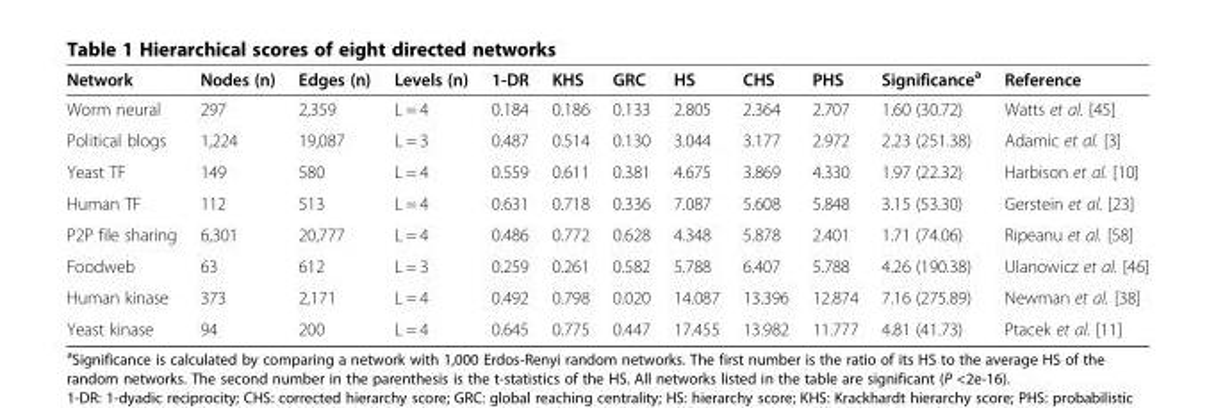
<table><thead><tr><td>Network</td><td>Nodes (n)</td><td>Edges (n)</td><td>Levels (n)</td><td>1-DR</td><td>KHS</td><td>GRC</td><td>HS</td><td>CHS</td><td>PHS</td><td>Significance<sup>a</sup></td><td>Reference</td></tr></thead><tbody><tr><td>Worm neural</td><td>297</td><td>2,359</td><td>L = 4</td><td>0.184</td><td>0.186</td><td>0.133</td><td>2.805</td><td>2.364</td><td>2.707</td><td>1.60 (30.72)</td><td>Watts et al. [45]</td></tr><tr><td>Political blogs</td><td>1,224</td><td>19,087</td><td>L = 3</td><td>0.487</td><td>0.514</td><td>0.130</td><td>3.044</td><td>3.177</td><td>2.972</td><td>2.23 (251.38)</td><td>Adamic et al. [3]</td></tr><tr><td>Yeast TF</td><td>149</td><td>580</td><td>L = 4</td><td>0.559</td><td>0.611</td><td>0.381</td><td>4.675</td><td>3.869</td><td>4.330</td><td>1.97 (22.32)</td><td>Harbison et al. [10]</td></tr><tr><td>Human TF</td><td>112</td><td>513</td><td>L = 4</td><td>0.631</td><td>0.718</td><td>0.336</td><td>7.087</td><td>5.608</td><td>5.848</td><td>3.15 (53.30)</td><td>Gerstein et al. [23]</td></tr><tr><td>P2P file sharing</td><td>6,301</td><td>20,777</td><td>L = 4</td><td>0.486</td><td>0.772</td><td>0.628</td><td>4.348</td><td>5.878</td><td>2.401</td><td>1.71 (74.06)</td><td>Ripeanu et al. [58]</td></tr><tr><td>Foodweb</td><td>63</td><td>612</td><td>L = 3</td><td>0.259</td><td>0.261</td><td>0.582</td><td>5.788</td><td>6.407</td><td>5.788</td><td>4.26 (190.38)</td><td>Ulanowicz et al. [46]</td></tr><tr><td>Human kinase</td><td>373</td><td>2,171</td><td>L = 4</td><td>0.492</td><td>0.798</td><td>0.020</td><td>14.087</td><td>13.396</td><td>12.874</td><td>7.16 (275.89)</td><td>Newman et al. [38]</td></tr><tr><td>Yeast kinase</td><td>94</td><td>200</td><td>L = 4</td><td>0.645</td><td>0.775</td><td>0.447</td><td>17.455</td><td>13.982</td><td>11.777</td><td>4.81 (41.73)</td><td>Ptacek et al. [11]</td></tr></tbody></table>